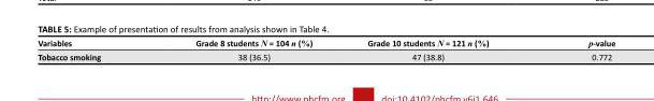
<table><thead><tr><td>Variables</td><td>Grade 8 students N = 104 n (%)</td><td>Grade 10 students N = 121 n (%)</td><td>p-value</td></tr></thead><tbody><tr><td>Tobacco smoking</td><td>38 (36.5)</td><td>47 (38.8)</td><td>0.772</td></tr></tbody></table>